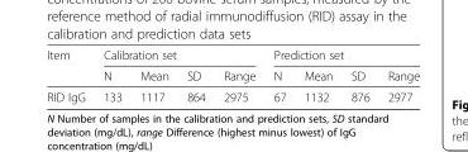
<table><thead><tr><td rowspan="2">Item</td><td colspan="4">Calibration set</td><td colspan="4">Prediction set</td></tr><tr><td>N</td><td>Mean</td><td>SD</td><td>Range</td><td>N</td><td>Mean</td><td>SD</td><td>Range</td></tr></thead><tbody><tr><td>RID IgG</td><td>133</td><td>1117</td><td>864</td><td>2975</td><td>67</td><td>1132</td><td>876</td><td>2977</td></tr></tbody></table>